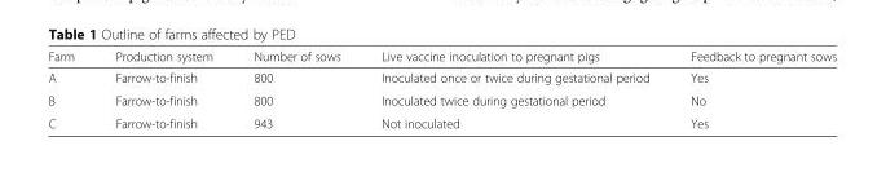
<table><thead><tr><td>Farm</td><td>Production system</td><td>Number of sows</td><td>Live vaccine inoculation to pregnant pigs</td><td>Feedback to pregnant sows</td></tr></thead><tbody><tr><td>A</td><td>Farrow-to-finish</td><td>800</td><td>Inoculated once or twice during gestational period</td><td>Yes</td></tr><tr><td>B</td><td>Farrow-to-finish</td><td>800</td><td>Inoculated twice during gestational period</td><td>No</td></tr><tr><td>C</td><td>Farrow-to-finish</td><td>943</td><td>Not inoculated</td><td>Yes</td></tr></tbody></table>